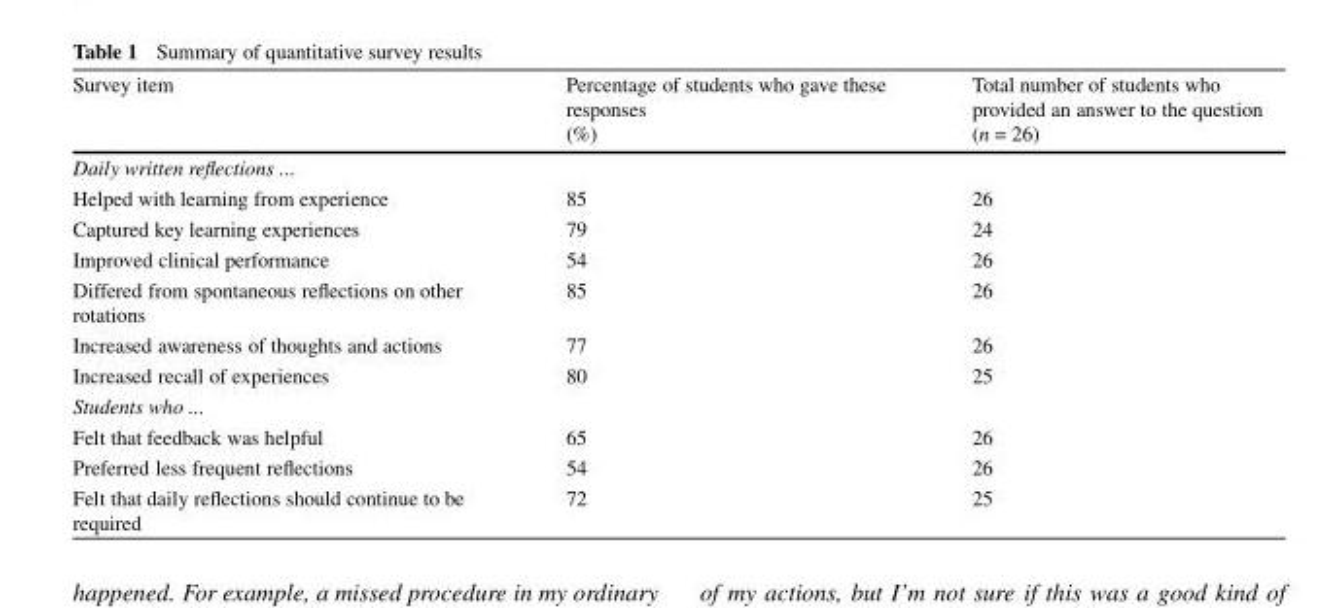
<table><thead><tr><td>Survey item</td><td>Percentage of students who gave these responses (%)</td><td>Total number of students who provided an answer to the question (n = 26)</td></tr></thead><tbody><tr><td colspan="3">Daily written reflections ...</td></tr><tr><td>Helped with learning from experience</td><td>85</td><td>26</td></tr><tr><td>Captured key learning experiences</td><td>79</td><td>24</td></tr><tr><td>Improved clinical performance</td><td>54</td><td>26</td></tr><tr><td>Differed from spontaneous reflections on other rotations</td><td>85</td><td>26</td></tr><tr><td>Increased awareness of thoughts and actions</td><td>77</td><td>26</td></tr><tr><td>Increased recall of experiences</td><td>80</td><td>25</td></tr><tr><td colspan="3">Students who ...</td></tr><tr><td>Felt that feedback was helpful</td><td>65</td><td>26</td></tr><tr><td>Preferred less frequent reflections</td><td>54</td><td>26</td></tr><tr><td>Felt that daily reflections should continue to be required</td><td>72</td><td>25</td></tr></tbody></table>